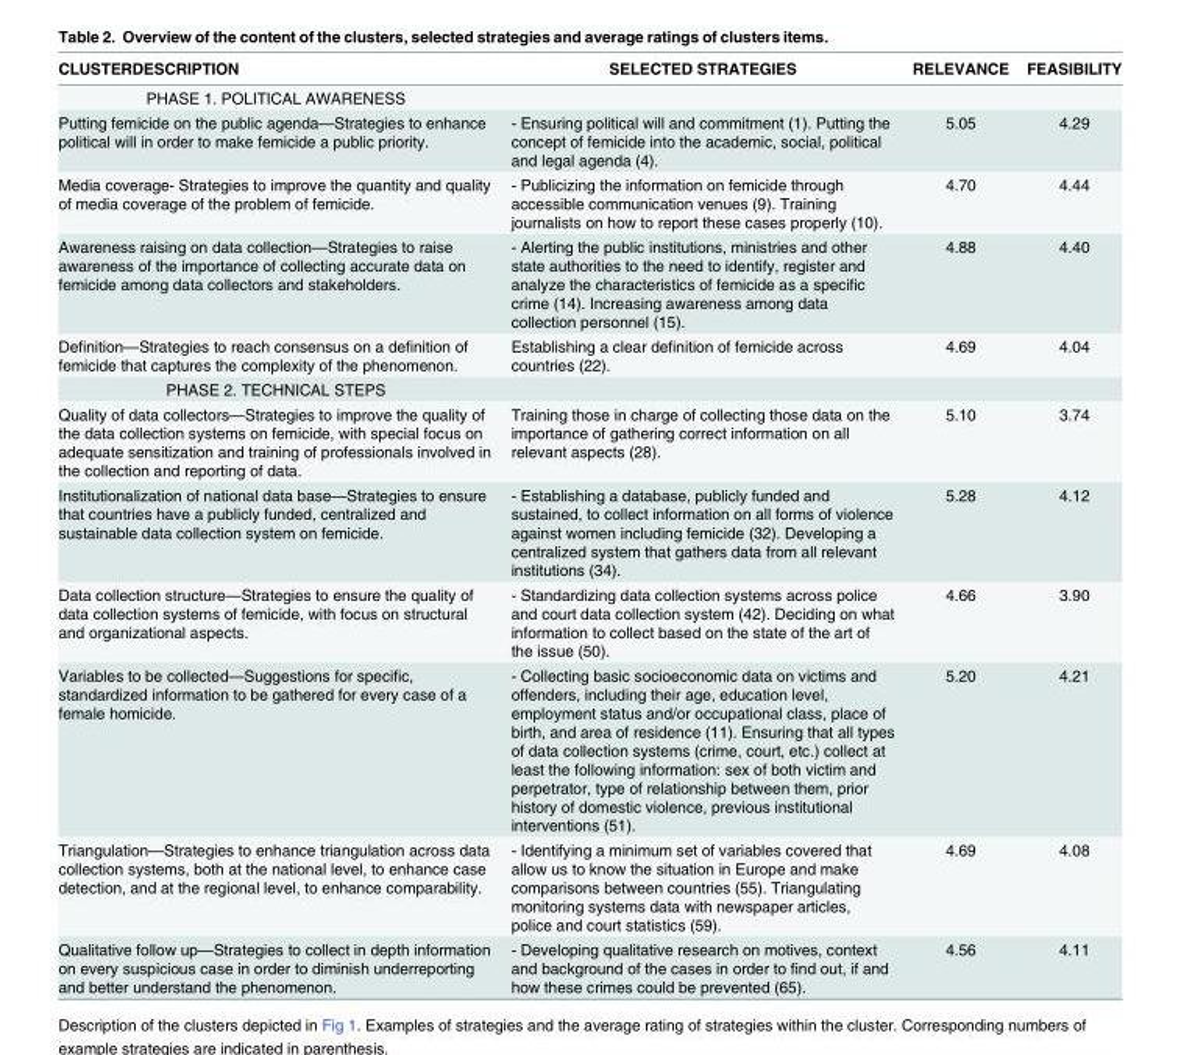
<table><thead><tr><td>CLUSTERDESCRIPTION</td><td>SELECTED STRATEGIES</td><td>RELEVANCE</td><td>FEASIBILITY</td></tr></thead><tbody><tr><td colspan="4">PHASE 1. POLITICAL AWARENESS</td></tr><tr><td>Putting femicide on the public agenda—Strategies to enhance political will in order to make femicide a public priority.</td><td>- Ensuring political will and commitment (1). Putting the concept of femicide into the academic, social, political and legal agenda (4).</td><td>5.05</td><td>4.29</td></tr><tr><td>Media coverage- Strategies to improve the quantity and quality of media coverage of the problem of femicide.</td><td>- Publicizing the information on femicide through accessible communication venues (9). Training journalists on how to report these cases properly (10).</td><td>4.70</td><td>4.44</td></tr><tr><td>Awareness raising on data collection—Strategies to raise awareness of the importance of collecting accurate data on femicide among data collectors and stakeholders.</td><td>- Alerting the public institutions, ministries and other state authorities to the need to identify, register and analyze the characteristics of femicide as a specific crime (14). Increasing awareness among data collection personnel (15).</td><td>4.88</td><td>4.40</td></tr><tr><td>Definition—Strategies to reach consensus on a definition of femicide that captures the complexity of the phenomenon.</td><td>Establishing a clear definition of femicide across countries (22).</td><td>4.69</td><td>4.04</td></tr><tr><td colspan="4">PHASE 2. TECHNICAL STEPS</td></tr><tr><td>Quality of data collectors—Strategies to improve the quality of the data collection systems on femicide, with special focus on adequate sensitization and training of professionals involved in the collection and reporting of data.</td><td>Training those in charge of collecting those data on the importance of gathering correct information on all relevant aspects (28).</td><td>5.10</td><td>3.74</td></tr><tr><td>Institutionalization of national data base—Strategies to ensure that countries have a publicly funded, centralized and sustainable data collection system on femicide.</td><td>- Establishing a database, publicly funded and sustained, to collect information on all forms of violence against women including femicide (32). Developing a centralized system that gathers data from all relevant institutions (34).</td><td>5.28</td><td>4.12</td></tr><tr><td>Data collection structure—Strategies to ensure the quality of data collection systems of femicide, with focus on structural and organizational aspects.</td><td>- Standardizing data collection systems across police and court data collection system (42). Deciding on what information to collect based on the state of the art of the issue (50).</td><td>4.66</td><td>3.90</td></tr><tr><td>Variables to be collected—Suggestions for specific, standardized information to be gathered for every case of a female homicide.</td><td>- Collecting basic socioeconomic data on victims and offenders, including their age, education level, employment status and/or occupational class, place of birth, and area of residence (11). Ensuring that all types of data collection systems (crime, court, etc.) collect at least the following information: sex of both victim and perpetrator, type of relationship between them, prior history of domestic violence, previous institutional interventions (51).</td><td>5.20</td><td>4.21</td></tr><tr><td>Triangulation—Strategies to enhance triangulation across data collection systems, both at the national level, to enhance case detection, and at the regional level, to enhance comparability.</td><td>- Identifying a minimum set of variables covered that allow us to know the situation in Europe and make comparisons between countries (55). Triangulating monitoring systems data with newspaper articles, police and court statistics (59).</td><td>4.69</td><td>4.08</td></tr><tr><td>Qualitative follow up—Strategies to collect in depth information on every suspicious case in order to diminish underreporting and better understand the phenomenon.</td><td>- Developing qualitative research on motives, context and background of the cases in order to find out, if and how these crimes could be prevented (65).</td><td>4.56</td><td>4.11</td></tr></tbody></table>